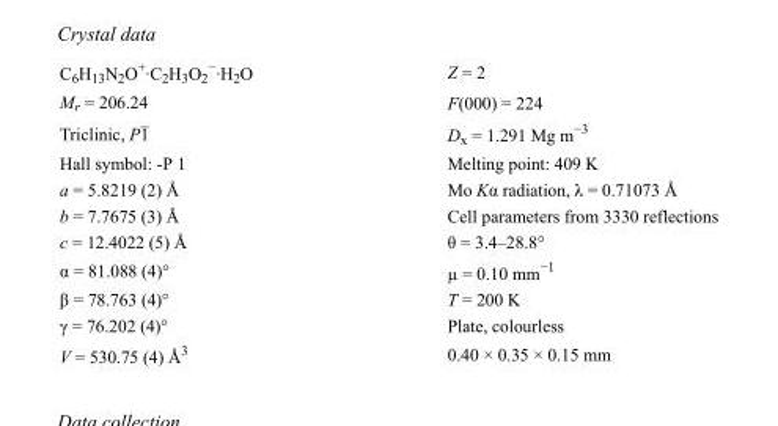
<table><tbody><tr><td>C<sub>6</sub>H<sub>13</sub>N<sub>2</sub>O<sup>+</sup>·C<sub>2</sub>H<sub>3</sub>O<sub>2</sub> <sup>−</sup>·H<sub>2</sub>O</td><td>Z = 2</td></tr><tr><td>M<sub>r</sub> = 206.24</td><td>F(000) = 224</td></tr><tr><td>Triclinic, P1</td><td>D<sub>x</sub> = 1.291 Mg m<sup>−3</sup></td></tr><tr><td>Hall symbol: -P 1</td><td>Melting point: 409 K</td></tr><tr><td>a = 5.8219 (2) Å</td><td>Mo Kα radiation, λ = 0.71073 Å</td></tr><tr><td>b = 7.7675 (3) Å</td><td>Cell parameters from 3330 reflections</td></tr><tr><td>c = 12.4022 (5) Å</td><td>θ = 3.4–28.8°</td></tr><tr><td>α = 81.088 (4)°</td><td>µ = 0.10 mm<sup>−1</sup></td></tr><tr><td>β = 78.763 (4)°</td><td>T = 200 K</td></tr><tr><td>γ = 76.202 (4)°</td><td>Plate, colourless</td></tr><tr><td>V = 530.75 (4) Å<sup>3</sup></td><td>0.40 × 0.35 × 0.15 mm</td></tr></tbody></table>